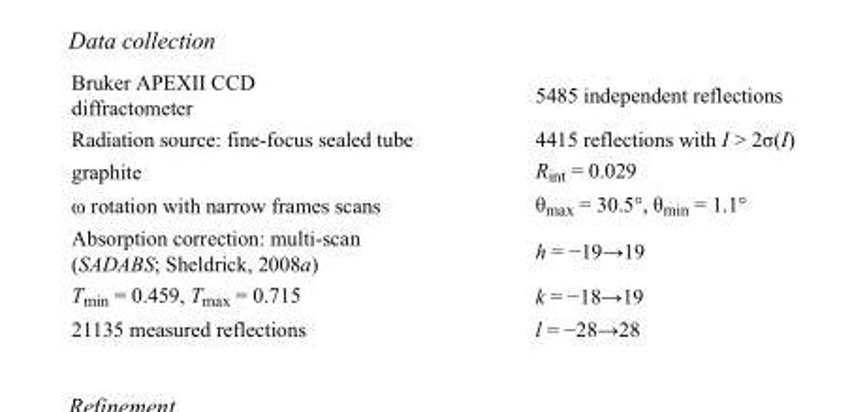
<table><tbody><tr><td>Bruker APEXII CCD diffractometer</td><td>5485 independent reflections</td></tr><tr><td>Radiation source: fine-focus sealed tube</td><td>4415 reflections with I &gt; 2σ(I)</td></tr><tr><td>graphite</td><td>R<sub>int</sub> = 0.029</td></tr><tr><td>ω rotation with narrow frames scans</td><td>θ<sub>max</sub> = 30.5°, θ<sub>min</sub> = 1.1°</td></tr><tr><td>Absorption correction: multi-scan (SADABS; Sheldrick, 2008a)</td><td>h = −19→19</td></tr><tr><td>T<sub>min</sub> = 0.459, T<sub>max</sub> = 0.715</td><td>k = −18→19</td></tr><tr><td>21135 measured reflections</td><td>l = −28→28</td></tr></tbody></table>